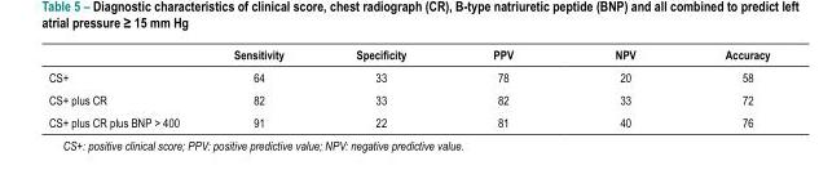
<table><thead><tr><td></td><td>Sensitivity</td><td>Specificity</td><td>PPV</td><td>NPV</td><td>Accuracy</td></tr></thead><tbody><tr><td>CS+</td><td>64</td><td>33</td><td>78</td><td>20</td><td>58</td></tr><tr><td>CS+ plus CR</td><td>82</td><td>33</td><td>82</td><td>33</td><td>72</td></tr><tr><td>CS+ plus CR plus BNP &gt; 400</td><td>91</td><td>22</td><td>81</td><td>40</td><td>76</td></tr></tbody></table>